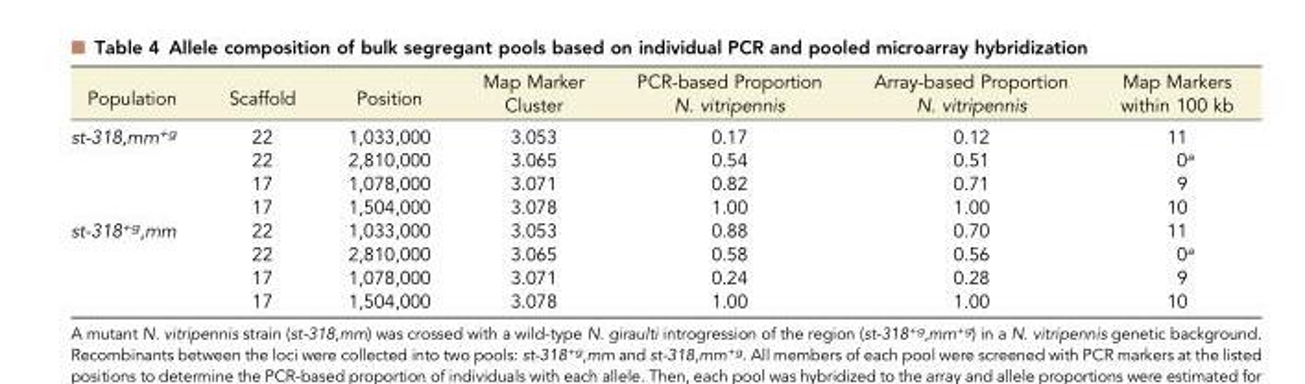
<table><thead><tr><td>Population</td><td>Scaffold</td><td>Position</td><td>Map Marker Cluster</td><td>PCR-based Proportion N. vitripennis</td><td>Array-based Proportion N. vitripennis</td><td>Map Markers within 100 kb</td></tr></thead><tbody><tr><td rowspan="4">st-318,mm<sup>+g</sup></td><td>22</td><td>1,033,000</td><td>3.053</td><td>0.17</td><td>0.12</td><td>11</td></tr><tr><td>22</td><td>2,810,000</td><td>3.065</td><td>0.54</td><td>0.51</td><td>0<sup>a</sup></td></tr><tr><td>17</td><td>1,078,000</td><td>3.071</td><td>0.82</td><td>0.71</td><td>9</td></tr><tr><td>17</td><td>1,504,000</td><td>3.078</td><td>1.00</td><td>1.00</td><td>10</td></tr><tr><td rowspan="4">st-318<sup>+g</sup>,mm</td><td>22</td><td>1,033,000</td><td>3.053</td><td>0.88</td><td>0.70</td><td>11</td></tr><tr><td>22</td><td>2,810,000</td><td>3.065</td><td>0.58</td><td>0.56</td><td>0<sup>a</sup></td></tr><tr><td>17</td><td>1,078,000</td><td>3.071</td><td>0.24</td><td>0.28</td><td>9</td></tr><tr><td>17</td><td>1,504,000</td><td>3.078</td><td>1.00</td><td>1.00</td><td>10</td></tr></tbody></table>